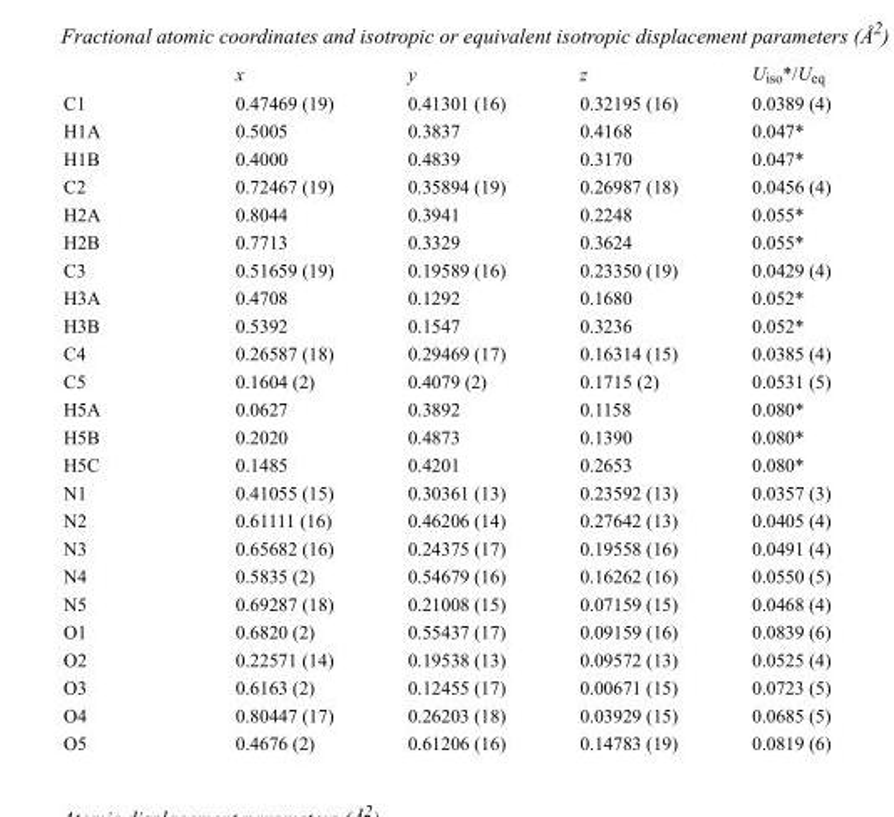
<table><thead><tr><td></td><td>x</td><td>y</td><td>z</td><td>U<sub>iso</sub>*/U<sub>eq</sub></td></tr></thead><tbody><tr><td>C1</td><td>0.47469 (19)</td><td>0.41301 (16)</td><td>0.32195 (16)</td><td>0.0389 (4)</td></tr><tr><td>H1A</td><td>0.5005</td><td>0.3837</td><td>0.4168</td><td>0.047*</td></tr><tr><td>H1B</td><td>0.4000</td><td>0.4839</td><td>0.3170</td><td>0.047*</td></tr><tr><td>C2</td><td>0.72467 (19)</td><td>0.35894 (19)</td><td>0.26987 (18)</td><td>0.0456 (4)</td></tr><tr><td>H2A</td><td>0.8044</td><td>0.3941</td><td>0.2248</td><td>0.055*</td></tr><tr><td>H2B</td><td>0.7713</td><td>0.3329</td><td>0.3624</td><td>0.055*</td></tr><tr><td>C3</td><td>0.51659 (19)</td><td>0.19589 (16)</td><td>0.23350 (19)</td><td>0.0429 (4)</td></tr><tr><td>H3A</td><td>0.4708</td><td>0.1292</td><td>0.1680</td><td>0.052*</td></tr><tr><td>H3B</td><td>0.5392</td><td>0.1547</td><td>0.3236</td><td>0.052*</td></tr><tr><td>C4</td><td>0.26587 (18)</td><td>0.29469 (17)</td><td>0.16314 (15)</td><td>0.0385 (4)</td></tr><tr><td>C5</td><td>0.1604 (2)</td><td>0.4079 (2)</td><td>0.1715 (2)</td><td>0.0531 (5)</td></tr><tr><td>H5A</td><td>0.0627</td><td>0.3892</td><td>0.1158</td><td>0.080*</td></tr><tr><td>H5B</td><td>0.2020</td><td>0.4873</td><td>0.1390</td><td>0.080*</td></tr><tr><td>H5C</td><td>0.1485</td><td>0.4201</td><td>0.2653</td><td>0.080*</td></tr><tr><td>N1</td><td>0.41055 (15)</td><td>0.30361 (13)</td><td>0.23592 (13)</td><td>0.0357 (3)</td></tr><tr><td>N2</td><td>0.61111 (16)</td><td>0.46206 (14)</td><td>0.27642 (13)</td><td>0.0405 (4)</td></tr><tr><td>N3</td><td>0.65682 (16)</td><td>0.24375 (17)</td><td>0.19558 (16)</td><td>0.0491 (4)</td></tr><tr><td>N4</td><td>0.5835 (2)</td><td>0.54679 (16)</td><td>0.16262 (16)</td><td>0.0550 (5)</td></tr><tr><td>N5</td><td>0.69287 (18)</td><td>0.21008 (15)</td><td>0.07159 (15)</td><td>0.0468 (4)</td></tr><tr><td>O1</td><td>0.6820 (2)</td><td>0.55437 (17)</td><td>0.09159 (16)</td><td>0.0839 (6)</td></tr><tr><td>O2</td><td>0.22571 (14)</td><td>0.19538 (13)</td><td>0.09572 (13)</td><td>0.0525 (4)</td></tr><tr><td>O3</td><td>0.6163 (2)</td><td>0.12455 (17)</td><td>0.00671 (15)</td><td>0.0723 (5)</td></tr><tr><td>O4</td><td>0.80447 (17)</td><td>0.26203 (18)</td><td>0.03929 (15)</td><td>0.0685 (5)</td></tr><tr><td>O5</td><td>0.4676 (2)</td><td>0.61206 (16)</td><td>0.14783 (19)</td><td>0.0819 (6)</td></tr></tbody></table>